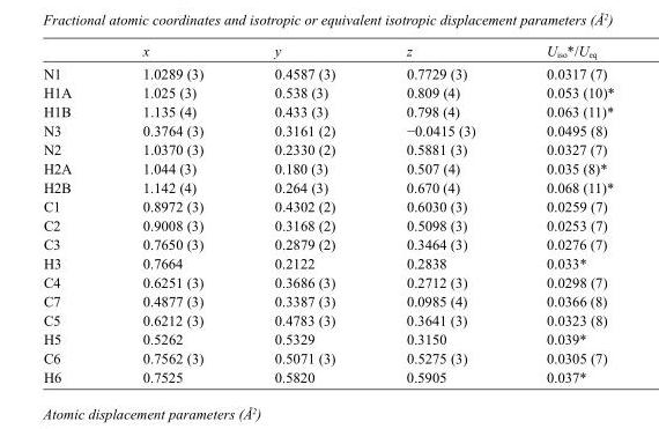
<table><thead><tr><td></td><td>x</td><td>y</td><td>z</td><td>U<sub>iso</sub>*/U<sub>eq</sub></td></tr></thead><tbody><tr><td>N1</td><td>1.0289 (3)</td><td>0.4587 (3)</td><td>0.7729 (3)</td><td>0.0317 (7)</td></tr><tr><td>H1A</td><td>1.025 (3)</td><td>0.538 (3)</td><td>0.809 (4)</td><td>0.053 (10)*</td></tr><tr><td>H1B</td><td>1.135 (4)</td><td>0.433 (3)</td><td>0.798 (4)</td><td>0.063 (11)*</td></tr><tr><td>N3</td><td>0.3764 (3)</td><td>0.3161 (2)</td><td>−0.0415 (3)</td><td>0.0495 (8)</td></tr><tr><td>N2</td><td>1.0370 (3)</td><td>0.2330 (2)</td><td>0.5881 (3)</td><td>0.0327 (7)</td></tr><tr><td>H2A</td><td>1.044 (3)</td><td>0.180 (3)</td><td>0.507 (4)</td><td>0.035 (8)*</td></tr><tr><td>H2B</td><td>1.142 (4)</td><td>0.264 (3)</td><td>0.670 (4)</td><td>0.068 (11)*</td></tr><tr><td>C1</td><td>0.8972 (3)</td><td>0.4302 (2)</td><td>0.6030 (3)</td><td>0.0259 (7)</td></tr><tr><td>C2</td><td>0.9008 (3)</td><td>0.3168 (2)</td><td>0.5098 (3)</td><td>0.0253 (7)</td></tr><tr><td>C3</td><td>0.7650 (3)</td><td>0.2879 (2)</td><td>0.3464 (3)</td><td>0.0276 (7)</td></tr><tr><td>H3</td><td>0.7664</td><td>0.2122</td><td>0.2838</td><td>0.033*</td></tr><tr><td>C4</td><td>0.6251 (3)</td><td>0.3686 (3)</td><td>0.2712 (3)</td><td>0.0298 (7)</td></tr><tr><td>C7</td><td>0.4877 (3)</td><td>0.3387 (3)</td><td>0.0985 (4)</td><td>0.0366 (8)</td></tr><tr><td>C5</td><td>0.6212 (3)</td><td>0.4783 (3)</td><td>0.3641 (3)</td><td>0.0323 (8)</td></tr><tr><td>H5</td><td>0.5262</td><td>0.5329</td><td>0.3150</td><td>0.039*</td></tr><tr><td>C6</td><td>0.7562 (3)</td><td>0.5071 (3)</td><td>0.5275 (3)</td><td>0.0305 (7)</td></tr><tr><td>H6</td><td>0.7525</td><td>0.5820</td><td>0.5905</td><td>0.037*</td></tr></tbody></table>